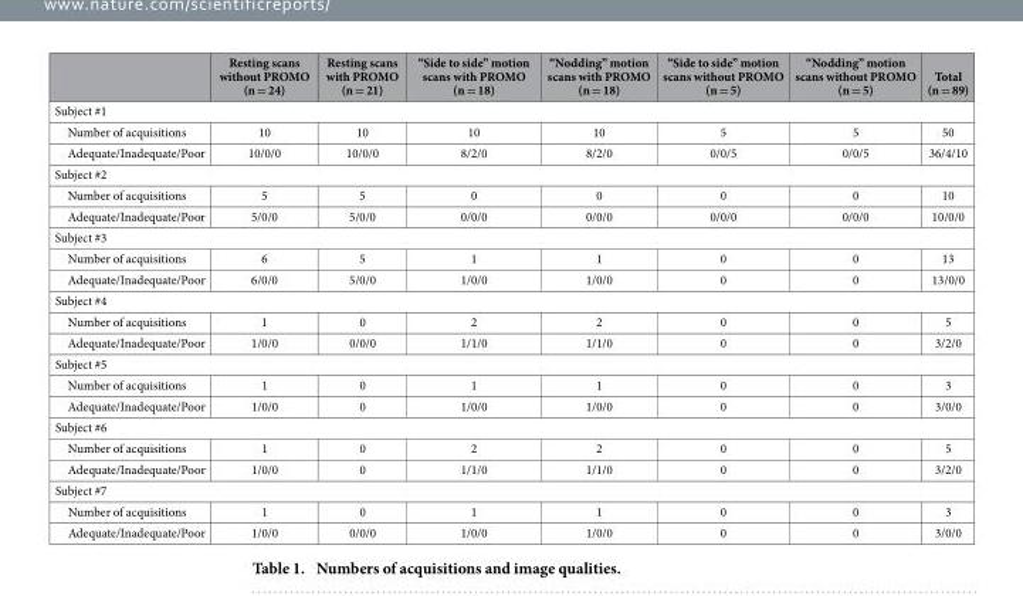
<table><thead><tr><td></td><td>Resting scans without PROMO (n = 24)</td><td>Resting scans with PROMO (n = 21)</td><td>“Side to side” motion scans with PROMO (n = 18)</td><td>“Nodding” motion scans with PROMO (n = 18)</td><td>“Side to side” motion scans without PROMO (n = 5)</td><td>“Nodding” motion scans without PROMO (n = 5)</td><td>Total (n = 89)</td></tr></thead><tbody><tr><td colspan="8">Subject #1</td></tr><tr><td>Number of acquisitions</td><td>10</td><td>10</td><td>10</td><td>10</td><td>5</td><td>5</td><td>50</td></tr><tr><td>Adequate/Inadequate/Poor</td><td>10/0/0</td><td>10/0/0</td><td>8/2/0</td><td>8/2/0</td><td>0/0/5</td><td>0/0/5</td><td>36/4/10</td></tr><tr><td colspan="8">Subject #2</td></tr><tr><td>Number of acquisitions</td><td>5</td><td>5</td><td>0</td><td>0</td><td>0</td><td>0</td><td>10</td></tr><tr><td>Adequate/Inadequate/Poor</td><td>5/0/0</td><td>5/0/0</td><td>0/0/0</td><td>0/0/0</td><td>0/0/0</td><td>0/0/0</td><td>10/0/0</td></tr><tr><td colspan="8">Subject #3</td></tr><tr><td>Number of acquisitions</td><td>6</td><td>5</td><td>1</td><td>1</td><td>0</td><td>0</td><td>13</td></tr><tr><td>Adequate/Inadequate/Poor</td><td>6/0/0</td><td>5/0/0</td><td>1/0/0</td><td>1/0/0</td><td>0</td><td>0</td><td>13/0/0</td></tr><tr><td colspan="8">Subject #4</td></tr><tr><td>Number of acquisitions</td><td>1</td><td>0</td><td>2</td><td>2</td><td>0</td><td>0</td><td>5</td></tr><tr><td>Adequate/Inadequate/Poor</td><td>1/0/0</td><td>0/0/0</td><td>1/1/0</td><td>1/1/0</td><td>0</td><td>0</td><td>3/2/0</td></tr><tr><td colspan="8">Subject #5</td></tr><tr><td>Number of acquisitions</td><td>1</td><td>0</td><td>1</td><td>1</td><td>0</td><td>0</td><td>3</td></tr><tr><td>Adequate/Inadequate/Poor</td><td>1/0/0</td><td>0</td><td>1/0/0</td><td>1/0/0</td><td>0</td><td>0</td><td>3/0/0</td></tr><tr><td colspan="8">Subject #6</td></tr><tr><td>Number of acquisitions</td><td>1</td><td>0</td><td>2</td><td>2</td><td>0</td><td>0</td><td>5</td></tr><tr><td>Adequate/Inadequate/Poor</td><td>1/0/0</td><td>0</td><td>1/1/0</td><td>1/1/0</td><td>0</td><td>0</td><td>3/2/0</td></tr><tr><td colspan="8">Subject #7</td></tr><tr><td>Number of acquisitions</td><td>1</td><td>0</td><td>1</td><td>1</td><td>0</td><td>0</td><td>3</td></tr><tr><td>Adequate/Inadequate/Poor</td><td>1/0/0</td><td>0/0/0</td><td>1/0/0</td><td>1/0/0</td><td>0</td><td>0</td><td>3/0/0</td></tr></tbody></table>